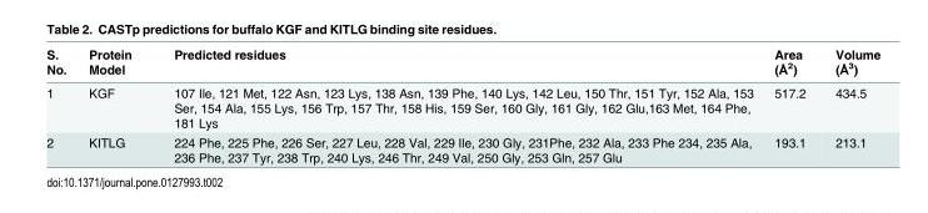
<table><thead><tr><td>S. No.</td><td>Protein Model</td><td>Predicted residues</td><td>Area (Å<sup>2</sup>)</td><td>Volume (Å<sup>3</sup>)</td></tr></thead><tbody><tr><td>1</td><td>KGF</td><td>107 Ile, 121 Met, 122 Asn, 123 Lys, 138 Asn, 139 Phe, 140 Lys, 142 Leu, 150 Thr, 151 Tyr, 152 Ala, 153 Ser, 154 Ala, 155 Lys, 156 Trp, 157 Thr, 158 His, 159 Ser, 160 Gly, 161 Gly, 162 Glu,163 Met, 164 Phe, 181 Lys</td><td>517.2</td><td>434.5</td></tr><tr><td>2</td><td>KITLG</td><td>224 Phe, 225 Phe, 226 Ser, 227 Leu, 228 Val, 229 Ile, 230 Gly, 231Phe, 232 Ala, 233 Phe 234, 235 Ala, 236 Phe, 237 Tyr, 238 Trp, 240 Lys, 246 Thr, 249 Val, 250 Gly, 253 Gln, 257 Glu</td><td>193.1</td><td>213.1</td></tr></tbody></table>